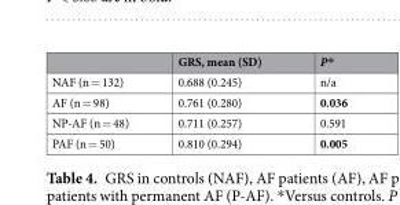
<table><thead><tr><td></td><td>GRS, mean (SD)</td><td>P*</td></tr></thead><tbody><tr><td>NAF (n = 132)</td><td>0.688 (0.245)</td><td>n/a</td></tr><tr><td>AF (n = 98)</td><td>0.761 (0.280)</td><td>0.036</td></tr><tr><td>NP-AF (n = 48)</td><td>0.711 (0.257)</td><td>0.591</td></tr><tr><td>PAF (n = 50)</td><td>0.810 (0.294)</td><td>0.005</td></tr></tbody></table>